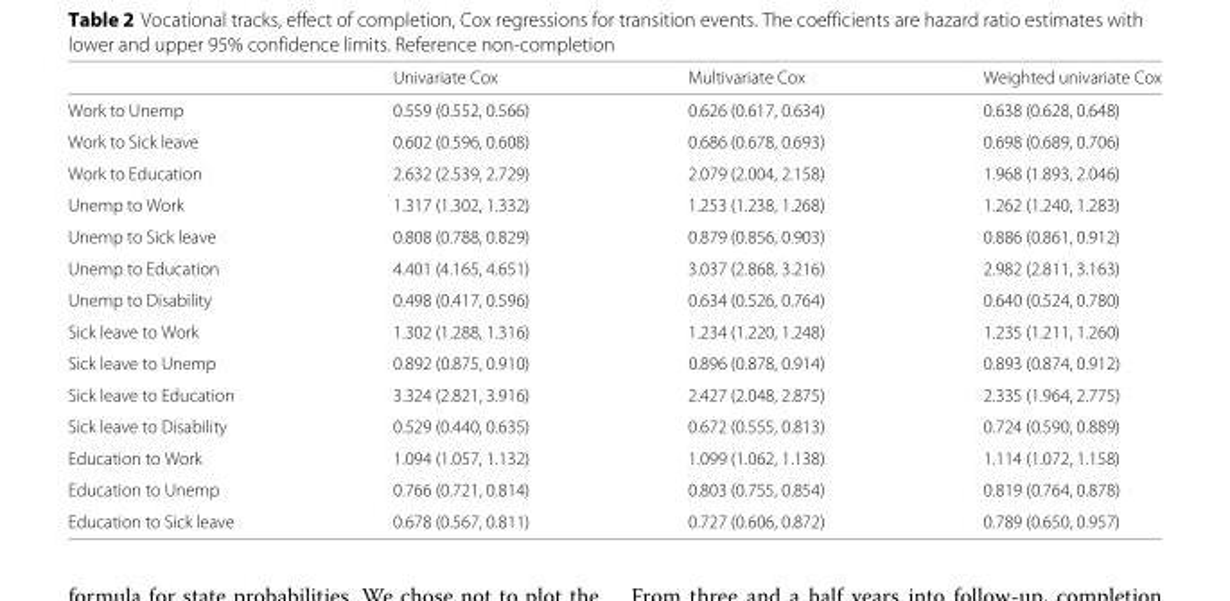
<table><thead><tr><td></td><td>Univariate Cox</td><td>Multivariate Cox</td><td>Weighted univariate Cox</td></tr></thead><tbody><tr><td>Work to Unemp</td><td>0.559 (0.552, 0.566)</td><td>0.626 (0.617, 0.634)</td><td>0.638 (0.628, 0.648)</td></tr><tr><td>Work to Sick leave</td><td>0.602 (0.596, 0.608)</td><td>0.686 (0.678, 0.693)</td><td>0.698 (0.689, 0.706)</td></tr><tr><td>Work to Education</td><td>2.632 (2.539, 2.729)</td><td>2.079 (2.004, 2.158)</td><td>1.968 (1.893, 2.046)</td></tr><tr><td>Unemp to Work</td><td>1.317 (1.302, 1.332)</td><td>1.253 (1.238, 1.268)</td><td>1.262 (1.240, 1.283)</td></tr><tr><td>Unemp to Sick leave</td><td>0.808 (0.788, 0.829)</td><td>0.879 (0.856, 0.903)</td><td>0.886 (0.861, 0.912)</td></tr><tr><td>Unemp to Education</td><td>4.401 (4.165, 4.651)</td><td>3.037 (2.868, 3.216)</td><td>2.982 (2.811, 3.163)</td></tr><tr><td>Unemp to Disability</td><td>0.498 (0.417, 0.596)</td><td>0.634 (0.526, 0.764)</td><td>0.640 (0.524, 0.780)</td></tr><tr><td>Sick leave to Work</td><td>1.302 (1.288, 1.316)</td><td>1.234 (1.220, 1.248)</td><td>1.235 (1.211, 1.260)</td></tr><tr><td>Sick leave to Unemp</td><td>0.892 (0.875, 0.910)</td><td>0.896 (0.878, 0.914)</td><td>0.893 (0.874, 0.912)</td></tr><tr><td>Sick leave to Education</td><td>3.324 (2.821, 3.916)</td><td>2.427 (2.048, 2.875)</td><td>2.335 (1.964, 2.775)</td></tr><tr><td>Sick leave to Disability</td><td>0.529 (0.440, 0.635)</td><td>0.672 (0.555, 0.813)</td><td>0.724 (0.590, 0.889)</td></tr><tr><td>Education to Work</td><td>1.094 (1.057, 1.132)</td><td>1.099 (1.062, 1.138)</td><td>1.114 (1.072, 1.158)</td></tr><tr><td>Education to Unemp</td><td>0.766 (0.721, 0.814)</td><td>0.803 (0.755, 0.854)</td><td>0.819 (0.764, 0.878)</td></tr><tr><td>Education to Sick leave</td><td>0.678 (0.567, 0.811)</td><td>0.727 (0.606, 0.872)</td><td>0.789 (0.650, 0.957)</td></tr></tbody></table>